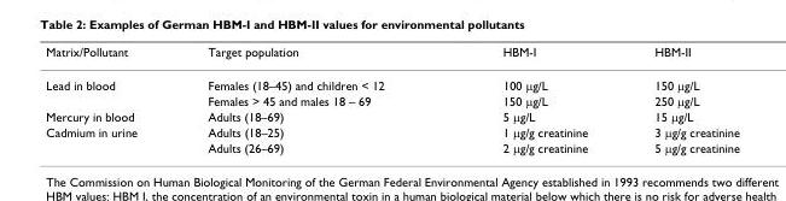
<table><thead><tr><td>Matrix/Pollutant</td><td>Target population</td><td>HBM-I</td><td>HBM-II</td></tr></thead><tbody><tr><td rowspan="2">Lead in blood</td><td>Females (18–45) and children &lt; 12</td><td>100 μg/L</td><td>150 μg/L</td></tr><tr><td>Females &gt; 45 and males 18 – 69</td><td>150 μg/L</td><td>250 μg/L</td></tr><tr><td>Mercury in blood</td><td>Adults (18–69)</td><td>5 μg/L</td><td>15 μg/L</td></tr><tr><td rowspan="2">Cadmium in urine</td><td>Adults (18–25)</td><td>1 μg/g creatinine</td><td>3 μg/g creatinine</td></tr><tr><td>Adults (26–69)</td><td>2 μg/g creatinine</td><td>5 μg/g creatinine</td></tr></tbody></table>